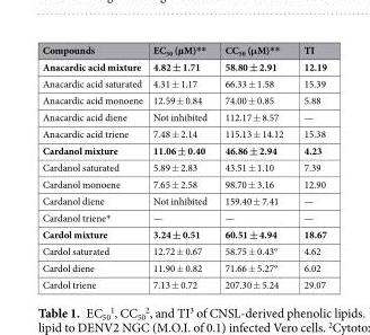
<table><thead><tr><td>Compounds</td><td>EC<sub>50</sub> (µM)**</td><td>CC<sub>50</sub> (μM)**</td><td>TI</td></tr></thead><tbody><tr><td>Anacardic acid mixture</td><td>4.82 ± 1.71</td><td>58.80 ± 2.91</td><td>12.19</td></tr><tr><td>Anacardic acid saturated</td><td>4.31 ± 1.17</td><td>66.33 ± 1.58</td><td>15.39</td></tr><tr><td>Anacardic acid monoene</td><td>12.59 ± 0.84</td><td>74.00 ± 0.85</td><td>5.88</td></tr><tr><td>Anacardic acid diene</td><td>Not inhibited</td><td>112.17 ± 8.57</td><td>—</td></tr><tr><td>Anacardic acid triene</td><td>7.48 ± 2.14</td><td>115.13 ± 14.12</td><td>15.38</td></tr><tr><td>Cardanol mixture</td><td>11.06 ± 0.40</td><td>46.86 ± 2.94</td><td>4.23</td></tr><tr><td>Cardanol saturated</td><td>5.89 ± 2.83</td><td>43.51 ± 1.10</td><td>7.39</td></tr><tr><td>Cardanol monoene</td><td>7.65 ± 2.58</td><td>98.70 ± 3.16</td><td>12.90</td></tr><tr><td>Cardanol diene</td><td>Not inhibited</td><td>159.40 ± 7.41</td><td>—</td></tr><tr><td>Cardanol triene*</td><td>—</td><td>—</td><td>—</td></tr><tr><td>Cardol mixture</td><td>3.24 ± 0.51</td><td>60.51 ± 4.94</td><td>18.67</td></tr><tr><td>Cardol saturated</td><td>12.72 ± 0.67</td><td>58.75 ± 0.43°</td><td>4.62</td></tr><tr><td>Cardol diene</td><td>11.90 ± 0.82</td><td>71.66 ± 5.27°</td><td>6.02</td></tr><tr><td>Cardol triene</td><td>7.13 ± 0.72</td><td>207.30 ± 5.24</td><td>29.07</td></tr></tbody></table>